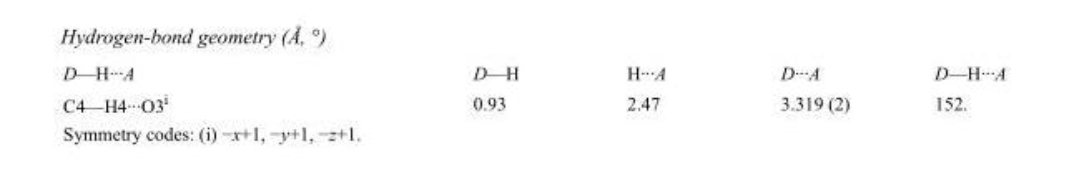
<table><tbody><tr><td>D—H···A</td><td>D—H</td><td>H···A</td><td>D···A</td><td>D—H···A</td></tr><tr><td>C4—H4···O3<sup>i</sup></td><td>0.93</td><td>2.47</td><td>3.319 (2)</td><td>152.</td></tr></tbody></table>